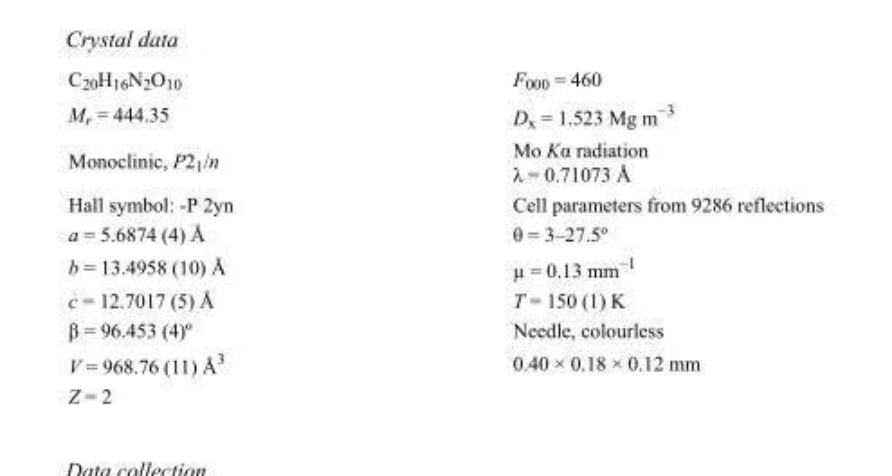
<table><tbody><tr><td>C<sub>20</sub>H<sub>16</sub>N<sub>2</sub>O<sub>10</sub></td><td>F<sub>000</sub> = 460</td></tr><tr><td>M<sub>r</sub> = 444.35</td><td>D<sub>x</sub> = 1.523 Mg m<sup>−3</sup></td></tr><tr><td>Monoclinic, P2<sub>1</sub>/n</td><td>Mo Kα radiation λ = 0.71073 Å</td></tr><tr><td>Hall symbol: -P 2yn</td><td>Cell parameters from 9286 reflections</td></tr><tr><td>a = 5.6874 (4) Å</td><td>θ = 3–27.5º</td></tr><tr><td>b = 13.4958 (10) Å</td><td>µ = 0.13 mm<sup>−1</sup></td></tr><tr><td>c = 12.7017 (5) Å</td><td>T = 150 (1) K</td></tr><tr><td>β = 96.453 (4)º</td><td>Needle, colourless</td></tr><tr><td>V = 968.76 (11) Å<sup>3</sup></td><td>0.40 × 0.18 × 0.12 mm</td></tr><tr><td>Z = 2</td><td></td></tr></tbody></table>